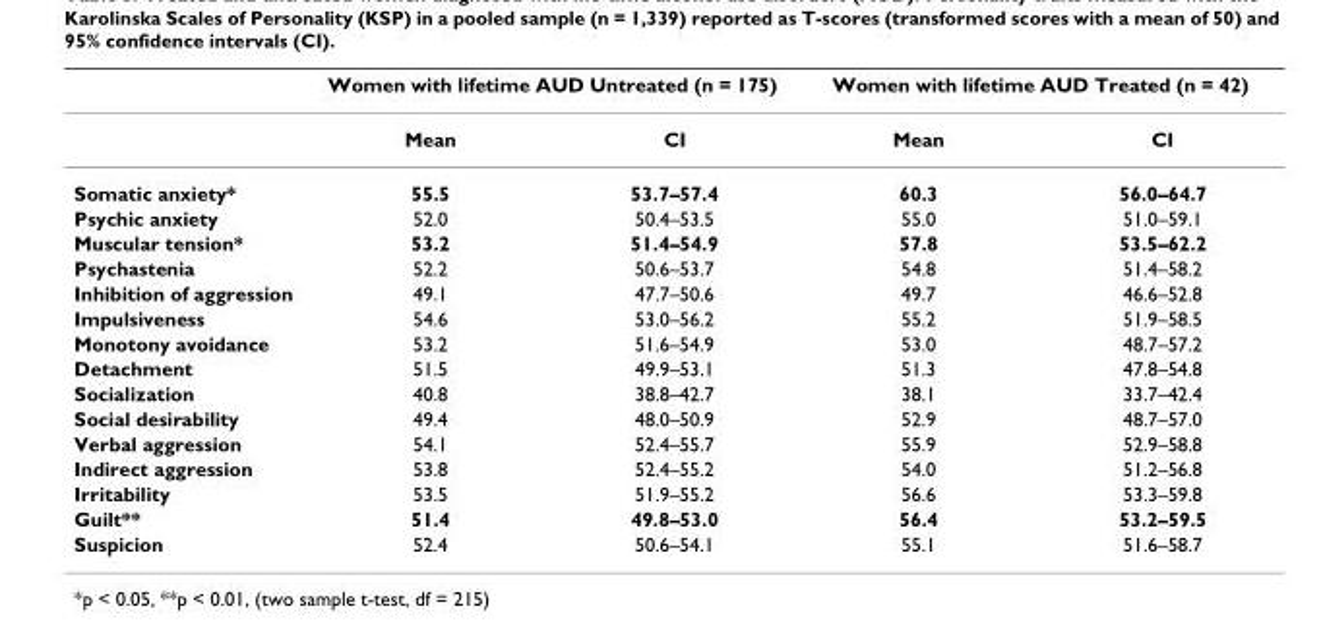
<table><thead><tr><td rowspan="2"></td><td colspan="2">Women with lifetime AUD Untreated (n = 175)</td><td colspan="2">Women with lifetime AUD Treated (n = 42)</td></tr><tr><td>Mean</td><td>CI</td><td>Mean</td><td>CI</td></tr></thead><tbody><tr><td>Somatic anxiety*</td><td>55.5</td><td>53.7–57.4</td><td>60.3</td><td>56.0–64.7</td></tr><tr><td>Psychic anxiety</td><td>52.0</td><td>50.4–53.5</td><td>55.0</td><td>51.0–59.1</td></tr><tr><td>Muscular tension*</td><td>53.2</td><td>51.4–54.9</td><td>57.8</td><td>53.5–62.2</td></tr><tr><td>Psychastenia</td><td>52.2</td><td>50.6–53.7</td><td>54.8</td><td>51.4–58.2</td></tr><tr><td>Inhibition of aggression</td><td>49.1</td><td>47.7–50.6</td><td>49.7</td><td>46.6–52.8</td></tr><tr><td>Impulsiveness</td><td>54.6</td><td>53.0–56.2</td><td>55.2</td><td>51.9–58.5</td></tr><tr><td>Monotony avoidance</td><td>53.2</td><td>51.6–54.9</td><td>53.0</td><td>48.7–57.2</td></tr><tr><td>Detachment</td><td>51.5</td><td>49.9–53.1</td><td>51.3</td><td>47.8–54.8</td></tr><tr><td>Socialization</td><td>40.8</td><td>38.8–42.7</td><td>38.1</td><td>33.7–42.4</td></tr><tr><td>Social desirability</td><td>49.4</td><td>48.0–50.9</td><td>52.9</td><td>48.7–57.0</td></tr><tr><td>Verbal aggression</td><td>54.1</td><td>52.4–55.7</td><td>55.9</td><td>52.9–58.8</td></tr><tr><td>Indirect aggression</td><td>53.8</td><td>52.4–55.2</td><td>54.0</td><td>51.2–56.8</td></tr><tr><td>Irritability</td><td>53.5</td><td>51.9–55.2</td><td>56.6</td><td>53.3–59.8</td></tr><tr><td>Guilt**</td><td>51.4</td><td>49.8–53.0</td><td>56.4</td><td>53.2–59.5</td></tr><tr><td>Suspicion</td><td>52.4</td><td>50.6–54.1</td><td>55.1</td><td>51.6–58.7</td></tr></tbody></table>